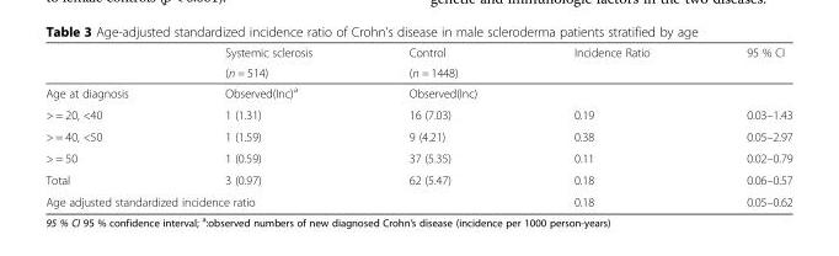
<table><thead><tr><td rowspan="2"></td><td rowspan="2">Systemic sclerosis (n = 514)</td><td rowspan="2">Control (n = 1448)</td><td rowspan="2">Incidence Ratio</td><td rowspan="2">95 % CI</td></tr><tr></tr></thead><tbody><tr><td>Age at diagnosis</td><td>Observed(Inc)<sup>a</sup></td><td>Observed(Inc)</td><td></td><td></td></tr><tr><td>&gt; = 20, &lt;40</td><td>1 (1.31)</td><td>16 (7.03)</td><td>0.19</td><td>0.03–1.43</td></tr><tr><td>&gt; = 40, &lt;50</td><td>1 (1.59)</td><td>9 (4.21)</td><td>0.38</td><td>0.05–2.97</td></tr><tr><td>&gt; = 50</td><td>1 (0.59)</td><td>37 (5.35)</td><td>0.11</td><td>0.02–0.79</td></tr><tr><td>Total</td><td>3 (0.97)</td><td>62 (5.47)</td><td>0.18</td><td>0.06–0.57</td></tr><tr><td colspan="3">Age adjusted standardized incidence ratio</td><td>0.18</td><td>0.05–0.62</td></tr></tbody></table>